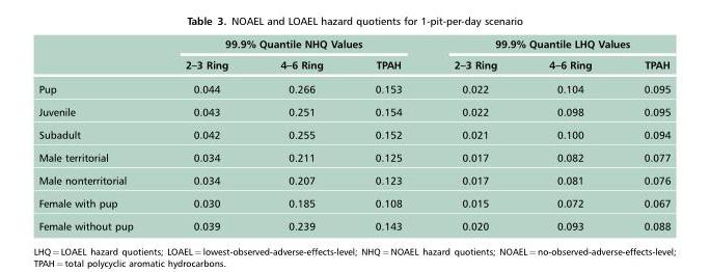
<table><thead><tr><td rowspan="2"></td><td colspan="3">99.9% Quantile NHQ Values</td><td colspan="3">99.9% Quantile LHQ Values</td></tr><tr><td>2–3 Ring</td><td>4–6 Ring</td><td>TPAH</td><td>2–3 Ring</td><td>4–6 Ring</td><td>TPAH</td></tr></thead><tbody><tr><td>Pup</td><td>0.044</td><td>0.266</td><td>0.153</td><td>0.022</td><td>0.104</td><td>0.095</td></tr><tr><td>Juvenile</td><td>0.043</td><td>0.251</td><td>0.154</td><td>0.022</td><td>0.098</td><td>0.095</td></tr><tr><td>Subadult</td><td>0.042</td><td>0.255</td><td>0.152</td><td>0.021</td><td>0.100</td><td>0.094</td></tr><tr><td>Male territorial</td><td>0.034</td><td>0.211</td><td>0.125</td><td>0.017</td><td>0.082</td><td>0.077</td></tr><tr><td>Male nonterritorial</td><td>0.034</td><td>0.207</td><td>0.123</td><td>0.017</td><td>0.081</td><td>0.076</td></tr><tr><td>Female with pup</td><td>0.030</td><td>0.185</td><td>0.108</td><td>0.015</td><td>0.072</td><td>0.067</td></tr><tr><td>Female without pup</td><td>0.039</td><td>0.239</td><td>0.143</td><td>0.020</td><td>0.093</td><td>0.088</td></tr></tbody></table>